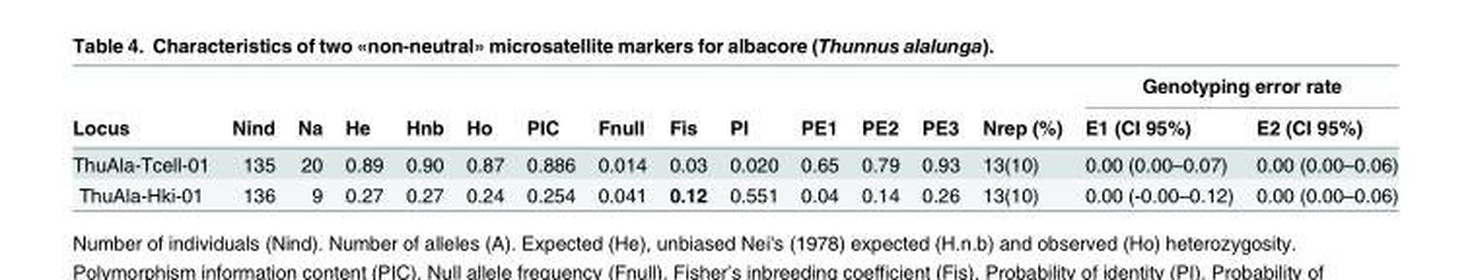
<table><thead><tr><td rowspan="2">Locus</td><td rowspan="2">Nind</td><td rowspan="2">Na</td><td rowspan="2">He</td><td rowspan="2">Hnb</td><td rowspan="2">Ho</td><td rowspan="2">PIC</td><td rowspan="2">Fnull</td><td rowspan="2">Fis</td><td rowspan="2">PI</td><td rowspan="2">PE1</td><td rowspan="2">PE2</td><td rowspan="2">PE3</td><td rowspan="2">Nrep (%)</td><td colspan="2">Genotyping error rate</td></tr><tr><td>E1 (CI 95%)</td><td>E2 (CI 95%)</td></tr></thead><tbody><tr><td>ThuAla-Tcell-01</td><td>135</td><td>20</td><td>0.89</td><td>0.90</td><td>0.87</td><td>0.886</td><td>0.014</td><td>0.03</td><td>0.020</td><td>0.65</td><td>0.79</td><td>0.93</td><td>13(10)</td><td>0.00 (0.00–0.07)</td><td>0.00 (0.00–0.06)</td></tr><tr><td>ThuAla-Hki-01</td><td>136</td><td>9</td><td>0.27</td><td>0.27</td><td>0.24</td><td>0.254</td><td>0.041</td><td>0.12</td><td>0.551</td><td>0.04</td><td>0.14</td><td>0.26</td><td>13(10)</td><td>0.00 (-0.00–0.12)</td><td>0.00 (0.00–0.06)</td></tr></tbody></table>